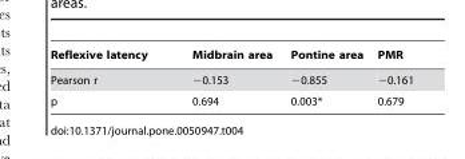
<table><thead><tr><td>Reflexive latency</td><td>Midbrain area</td><td>Pontine area</td><td>PMR</td></tr></thead><tbody><tr><td>Pearson r</td><td>−0.153</td><td>−0.855</td><td>−0.161</td></tr><tr><td>p</td><td>0.694</td><td>0.003*</td><td>0.679</td></tr></tbody></table>